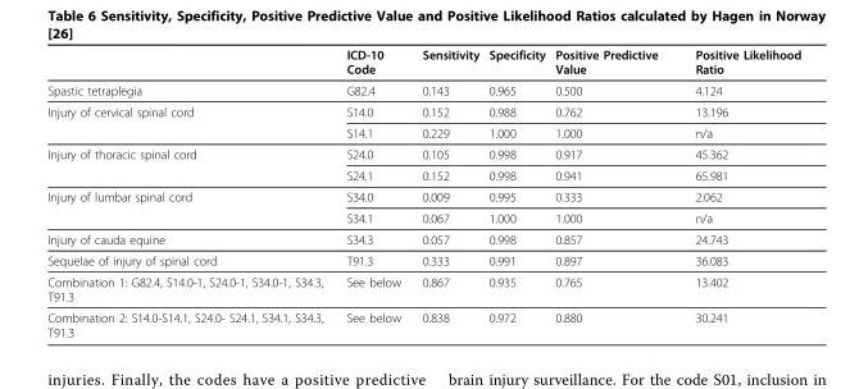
<table><thead><tr><td></td><td>ICD-10 Code</td><td>Sensitivity</td><td>Specificity</td><td>Positive Predictive Value</td><td>Positive Likelihood Ratio</td></tr></thead><tbody><tr><td>Spastic tetraplegia</td><td>G82.4</td><td>0.143</td><td>0.965</td><td>0.500</td><td>4.124</td></tr><tr><td rowspan="2">Injury of cervical spinal cord</td><td>S14.0</td><td>0.152</td><td>0.988</td><td>0.762</td><td>13.196</td></tr><tr><td>S14.1</td><td>0.229</td><td>1.000</td><td>1.000</td><td>n/a</td></tr><tr><td rowspan="2">Injury of thoracic spinal cord</td><td>S24.0</td><td>0.105</td><td>0.998</td><td>0.917</td><td>45.362</td></tr><tr><td>S24.1</td><td>0.152</td><td>0.998</td><td>0.941</td><td>65.981</td></tr><tr><td rowspan="2">Injury of lumbar spinal cord</td><td>S34.0</td><td>0.009</td><td>0.995</td><td>0.333</td><td>2.062</td></tr><tr><td>S34.1</td><td>0.067</td><td>1.000</td><td>1.000</td><td>n/a</td></tr><tr><td>Injury of cauda equine</td><td>S34.3</td><td>0.057</td><td>0.998</td><td>0.857</td><td>24.743</td></tr><tr><td>Sequelae of injury of spinal cord</td><td>T91.3</td><td>0.333</td><td>0.991</td><td>0.897</td><td>36.083</td></tr><tr><td>Combination 1: G82.4, S14.0-1, S24.0-1, S34.0-1, S34.3, T91.3</td><td>See below</td><td>0.867</td><td>0.935</td><td>0.765</td><td>13.402</td></tr><tr><td>Combination 2: S14.0-S14.1, S24.0- S24.1, S34.1, S34.3, T91.3</td><td>See below</td><td>0.838</td><td>0.972</td><td>0.880</td><td>30.241</td></tr></tbody></table>